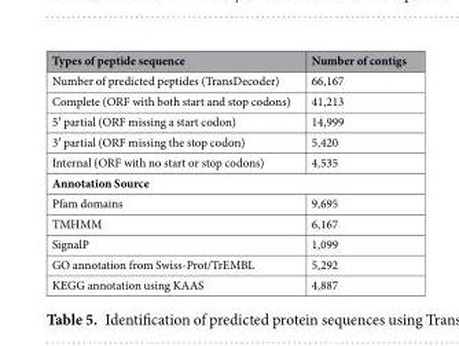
<table><thead><tr><td>Types of peptide sequence</td><td>Number of contigs</td></tr></thead><tbody><tr><td>Number of predicted peptides (TransDecoder)</td><td>66,167</td></tr><tr><td>Complete (ORF with both start and stop codons)</td><td>41,213</td></tr><tr><td>5′ partial (ORF missing a start codon)</td><td>14,999</td></tr><tr><td>3′ partial (ORF missing the stop codon)</td><td>5,420</td></tr><tr><td>Internal (ORF with no start or stop codons)</td><td>4,535</td></tr><tr><td colspan="2">Annotation Source</td></tr><tr><td>Pfam domains</td><td>9,695</td></tr><tr><td>TMHMM</td><td>6,167</td></tr><tr><td>SignalP</td><td>1,099</td></tr><tr><td>GO annotation from Swiss-Prot/TrEMBL</td><td>5,292</td></tr><tr><td>KEGG annotation using KAAS</td><td>4,887</td></tr></tbody></table>